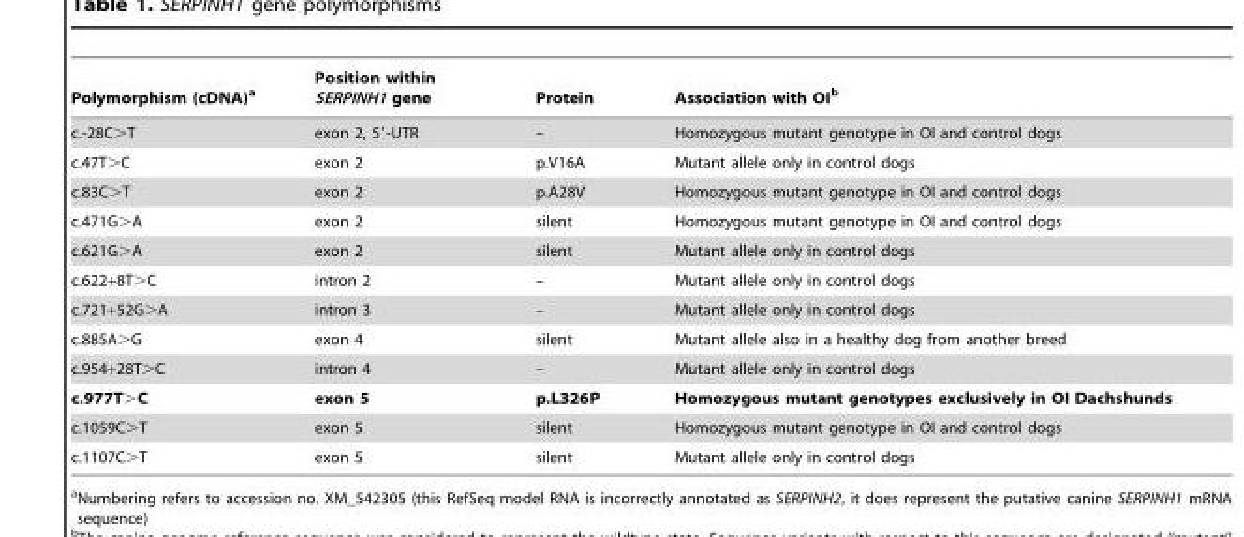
<table><thead><tr><td>Polymorphism (cDNA)<sup>a</sup></td><td>Position within SERPINH1 gene</td><td>Protein</td><td>Association with OI<sup>b</sup></td></tr></thead><tbody><tr><td>c.-28C&gt;T</td><td>exon 2, 5′-UTR</td><td>–</td><td>Homozygous mutant genotype in OI and control dogs</td></tr><tr><td>c.47T&gt;C</td><td>exon 2</td><td>p.V16A</td><td>Mutant allele only in control dogs</td></tr><tr><td>c.83C&gt;T</td><td>exon 2</td><td>p.A28V</td><td>Homozygous mutant genotype in OI and control dogs</td></tr><tr><td>c.471G&gt;A</td><td>exon 2</td><td>silent</td><td>Homozygous mutant genotype in OI and control dogs</td></tr><tr><td>c.621G&gt;A</td><td>exon 2</td><td>silent</td><td>Mutant allele only in control dogs</td></tr><tr><td>c.622+8T&gt;C</td><td>intron 2</td><td>–</td><td>Mutant allele only in control dogs</td></tr><tr><td>c.721+52G&gt;A</td><td>intron 3</td><td>–</td><td>Mutant allele only in control dogs</td></tr><tr><td>c.885A&gt;G</td><td>exon 4</td><td>silent</td><td>Mutant allele also in a healthy dog from another breed</td></tr><tr><td>c.954+28T&gt;C</td><td>intron 4</td><td>–</td><td>Mutant allele only in control dogs</td></tr><tr><td>c.977T&gt;C</td><td>exon 5</td><td>p.L326P</td><td>Homozygous mutant genotypes exclusively in OI Dachshunds</td></tr><tr><td>c.1059C&gt;T</td><td>exon 5</td><td>silent</td><td>Homozygous mutant genotype in OI and control dogs</td></tr><tr><td>c.1107C&gt;T</td><td>exon 5</td><td>silent</td><td>Mutant allele only in control dogs</td></tr></tbody></table>